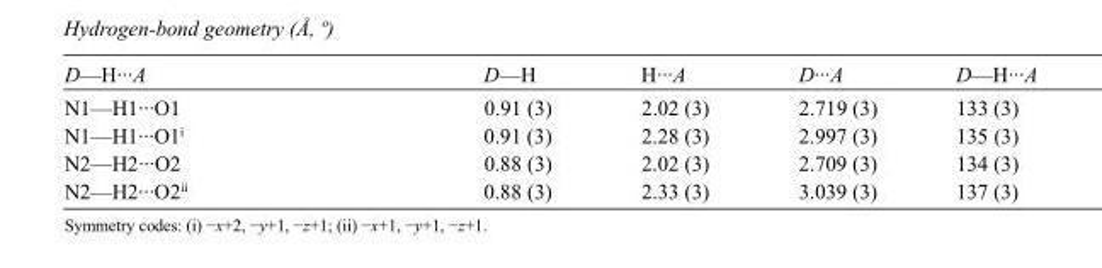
<table><tbody><tr><td>D—H···A</td><td>D—H</td><td>H···A</td><td>D···A</td><td>D—H···A</td></tr><tr><td>N1—H1···O1</td><td>0.91 (3)</td><td>2.02 (3)</td><td>2.719 (3)</td><td>133 (3)</td></tr><tr><td>N1—H1···O1<sup>i</sup></td><td>0.91 (3)</td><td>2.28 (3)</td><td>2.997 (3)</td><td>135 (3)</td></tr><tr><td>N2—H2···O2</td><td>0.88 (3)</td><td>2.02 (3)</td><td>2.709 (3)</td><td>134 (3)</td></tr><tr><td>N2—H2···O2<sup>ii</sup></td><td>0.88 (3)</td><td>2.33 (3)</td><td>3.039 (3)</td><td>137 (3)</td></tr></tbody></table>